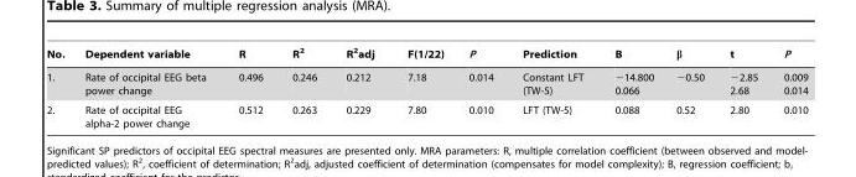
<table><thead><tr><td>No.</td><td>Dependent variable</td><td>R</td><td>R<sup>2</sup></td><td>R<sup>2</sup>adj</td><td>F(1/22)</td><td>P</td><td>Prediction</td><td>B</td><td>β</td><td>t</td><td>P</td></tr></thead><tbody><tr><td>1.</td><td>Rate of occipital EEG beta power change</td><td>0.496</td><td>0.246</td><td>0.212</td><td>7.18</td><td>0.014</td><td>Constant LFT (TW-5)</td><td>−14.800 0.066</td><td>−0.50</td><td>−2.85 2.68</td><td>0.009 0.014</td></tr><tr><td>2.</td><td>Rate of occipital EEG alpha-2 power change</td><td>0.512</td><td>0.263</td><td>0.229</td><td>7.80</td><td>0.010</td><td>LFT (TW-5)</td><td>0.088</td><td>0.52</td><td>2.80</td><td>0.010</td></tr></tbody></table>